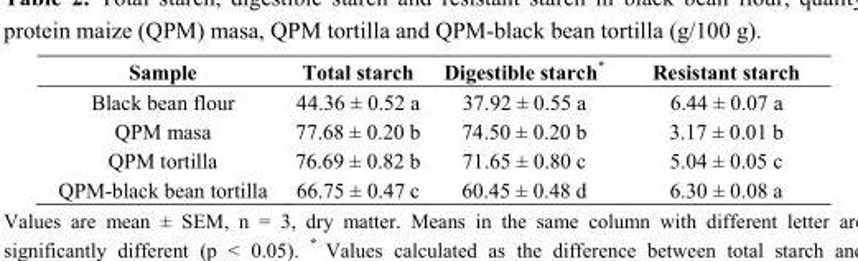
<table><thead><tr><td>Sample</td><td>Total starch</td><td>Digestible starch*</td><td>Resistant starch</td></tr></thead><tbody><tr><td>Black bean flour</td><td>44.36 ± 0.52 a</td><td>37.92 ± 0.55 a</td><td>6.44 ± 0.07 a</td></tr><tr><td>QPM masa</td><td>77.68 ± 0.20 b</td><td>74.50 ± 0.20 b</td><td>3.17 ± 0.01 b</td></tr><tr><td>QPM tortilla</td><td>76.69 ± 0.82 b</td><td>71.65 ± 0.80 c</td><td>5.04 ± 0.05 c</td></tr><tr><td>QPM-black bean tortilla</td><td>66.75 ± 0.47 c</td><td>60.45 ± 0.48 d</td><td>6.30 ± 0.08 a</td></tr></tbody></table>